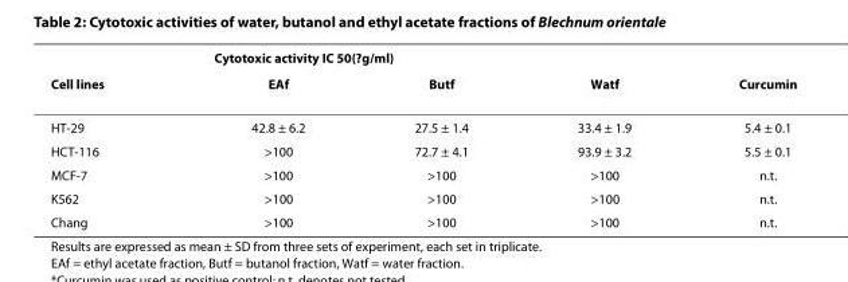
<table><thead><tr><td rowspan="2">Cell lines</td><td colspan="4">Cytotoxic activity IC 50(?g/ml)</td></tr><tr><td>EAf</td><td>Butf</td><td>Watf</td><td>Curcumin</td></tr></thead><tbody><tr><td>HT-29</td><td>42.8 ± 6.2</td><td>27.5 ± 1.4</td><td>33.4 ± 1.9</td><td>5.4 ± 0.1</td></tr><tr><td>HCT-116</td><td>&gt;100</td><td>72.7 ± 4.1</td><td>93.9 ± 3.2</td><td>5.5 ± 0.1</td></tr><tr><td>MCF-7</td><td>&gt;100</td><td>&gt;100</td><td>&gt;100</td><td>n.t.</td></tr><tr><td>K562</td><td>&gt;100</td><td>&gt;100</td><td>&gt;100</td><td>n.t.</td></tr><tr><td>Chang</td><td>&gt;100</td><td>&gt;100</td><td>&gt;100</td><td>n.t.</td></tr></tbody></table>